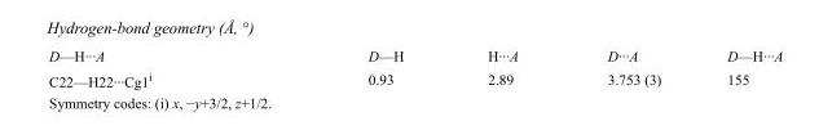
<table><tbody><tr><td>D—H···A</td><td>D—H</td><td>H···A</td><td>D···A</td><td>D—H···A</td></tr><tr><td>C22—H22···Cg1<sup>i</sup></td><td>0.93</td><td>2.89</td><td>3.753 (3)</td><td>155</td></tr></tbody></table>